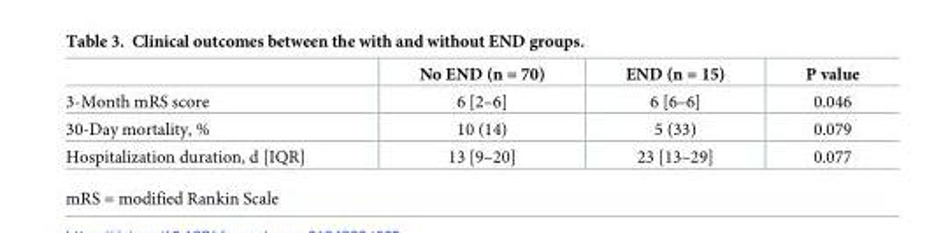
<table><thead><tr><td></td><td>No END (n = 70)</td><td>END (n = 15)</td><td>P value</td></tr></thead><tbody><tr><td>3-Month mRS score</td><td>6 [2–6]</td><td>6 [6–6]</td><td>0.046</td></tr><tr><td>30-Day mortality, %</td><td>10 (14)</td><td>5 (33)</td><td>0.079</td></tr><tr><td>Hospitalization duration, d [IQR]</td><td>13 [9–20]</td><td>23 [13–29]</td><td>0.077</td></tr></tbody></table>